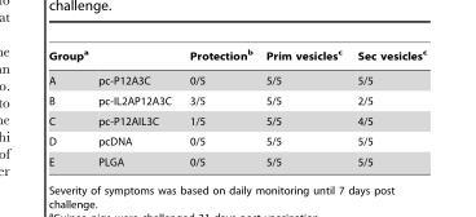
<table><thead><tr><td>Group<sup>a</sup></td><td></td><td>Protection<sup>b</sup></td><td>Prim vesicles<sup>c</sup></td><td>Sec vesicles<sup>c</sup></td></tr></thead><tbody><tr><td>A</td><td>pc-P12A3C</td><td>0/5</td><td>5/5</td><td>5/5</td></tr><tr><td>B</td><td>pc-IL2AP12A3C</td><td>3/5</td><td>5/5</td><td>2/5</td></tr><tr><td>C</td><td>pc-P12AIL3C</td><td>1/5</td><td>5/5</td><td>4/5</td></tr><tr><td>D</td><td>pcDNA</td><td>0/5</td><td>5/5</td><td>5/5</td></tr><tr><td>E</td><td>PLGA</td><td>0/5</td><td>5/5</td><td>5/5</td></tr></tbody></table>